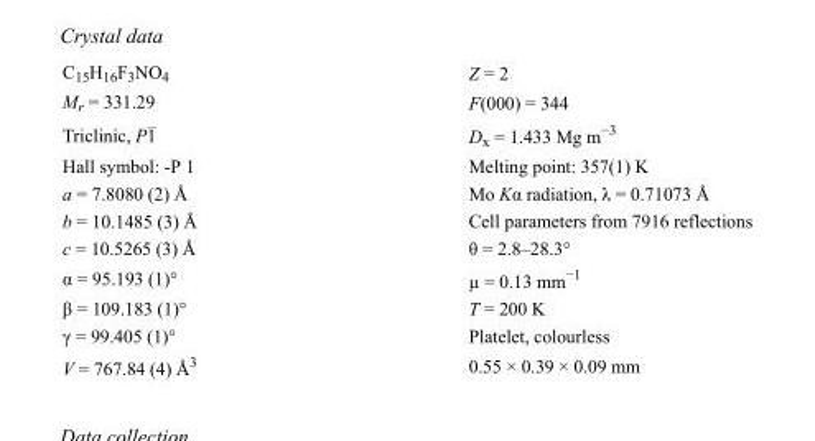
<table><tbody><tr><td>C<sub>15</sub>H<sub>16</sub>F<sub>3</sub>NO<sub>4</sub></td><td>Z = 2</td></tr><tr><td>M<sub>r</sub> = 331.29</td><td>F(000) = 344</td></tr><tr><td>Triclinic, P1</td><td>D<sub>x</sub> = 1.433 Mg m<sup>−3</sup></td></tr><tr><td>Hall symbol: -P 1</td><td>Melting point: 357(1) K</td></tr><tr><td>a = 7.8080 (2) Å</td><td>Mo Kα radiation, λ = 0.71073 Å</td></tr><tr><td>b = 10.1485 (3) Å</td><td>Cell parameters from 7916 reflections</td></tr><tr><td>c = 10.5265 (3) Å</td><td>θ = 2.8–28.3°</td></tr><tr><td>α = 95.193 (1)°</td><td>µ = 0.13 mm<sup>−1</sup></td></tr><tr><td>β = 109.183 (1)°</td><td>T = 200 K</td></tr><tr><td>γ = 99.405 (1)°</td><td>Platelet, colourless</td></tr><tr><td>V = 767.84 (4) Å<sup>3</sup></td><td>0.55 × 0.39 × 0.09 mm</td></tr></tbody></table>